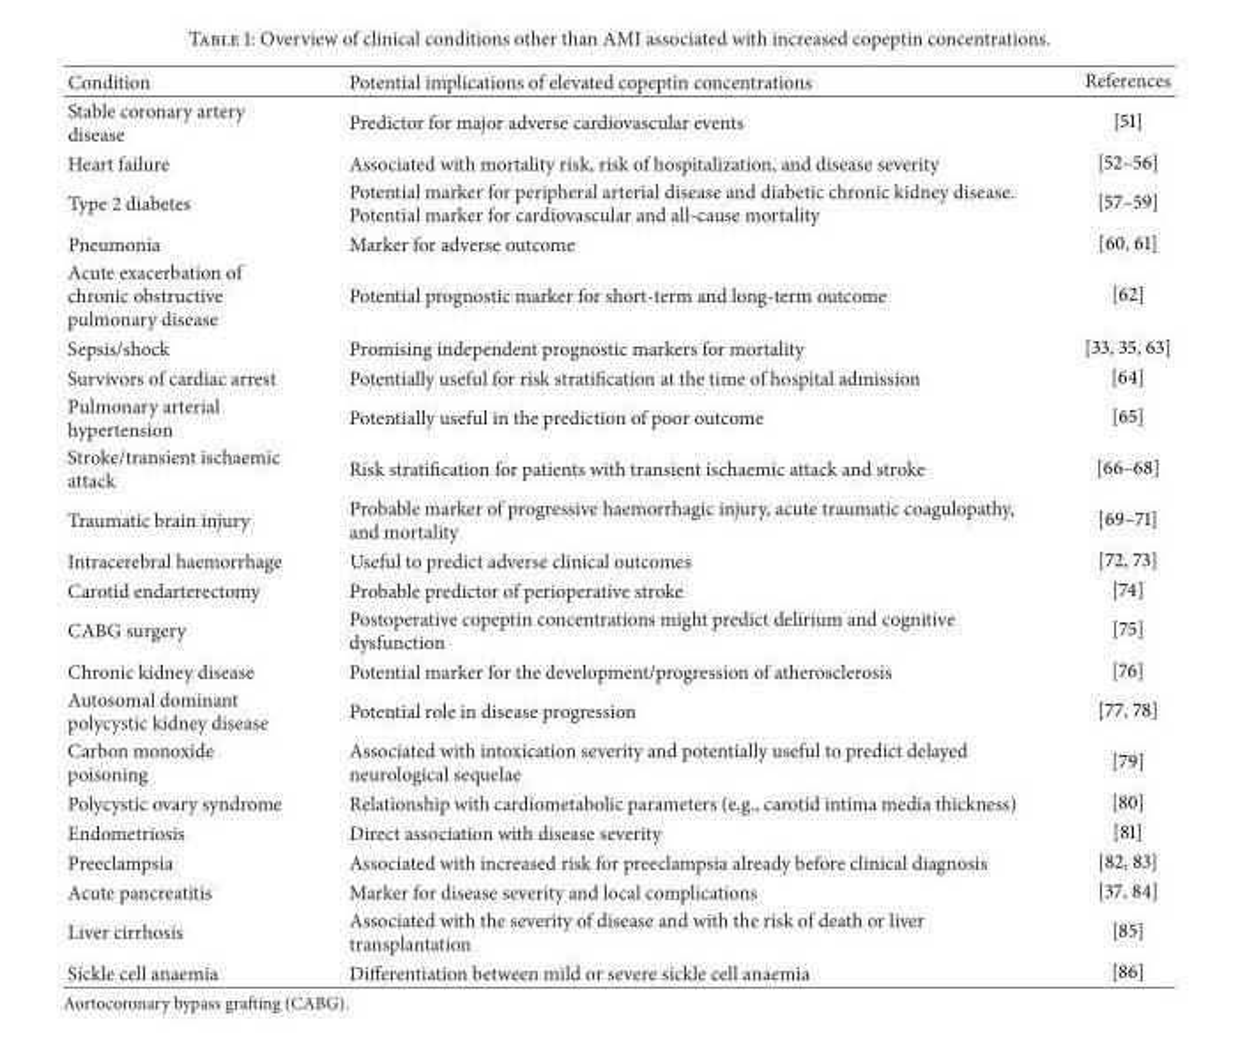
<table><thead><tr><td>Condition</td><td>Potential implications of elevated copeptin concentrations</td><td>References</td></tr></thead><tbody><tr><td>Stable coronary artery disease</td><td>Predictor for major adverse cardiovascular events</td><td>[51]</td></tr><tr><td>Heart failure</td><td>Associated with mortality risk, risk of hospitalization, and disease severity</td><td>[52–56]</td></tr><tr><td>Type 2 diabetes</td><td>Potential marker for peripheral arterial disease and diabetic chronic kidney disease. Potential marker for cardiovascular and all-cause mortality</td><td>[57–59]</td></tr><tr><td>Pneumonia</td><td>Marker for adverse outcome</td><td>[60, 61]</td></tr><tr><td>Acute exacerbation of chronic obstructive pulmonary disease</td><td>Potential prognostic marker for short-term and long-term outcome</td><td>[62]</td></tr><tr><td>Sepsis/shock</td><td>Promising independent prognostic markers for mortality</td><td>[33, 35, 63]</td></tr><tr><td>Survivors of cardiac arrest</td><td>Potentially useful for risk stratification at the time of hospital admission</td><td>[64]</td></tr><tr><td>Pulmonary arterial hypertension</td><td>Potentially useful in the prediction of poor outcome</td><td>[65]</td></tr><tr><td>Stroke/transient ischaemic attack</td><td>Risk stratification for patients with transient ischaemic attack and stroke</td><td>[66–68]</td></tr><tr><td>Traumatic brain injury</td><td>Probable marker of progressive haemorrhagic injury, acute traumatic coagulopathy, and mortality</td><td>[69–71]</td></tr><tr><td>Intracerebral haemorrhage</td><td>Useful to predict adverse clinical outcomes</td><td>[72, 73]</td></tr><tr><td>Carotid endarterectomy</td><td>Probable predictor of perioperative stroke</td><td>[74]</td></tr><tr><td>CABG surgery</td><td>Postoperative copeptin concentrations might predict delirium and cognitive dysfunction</td><td>[75]</td></tr><tr><td>Chronic kidney disease</td><td>Potential marker for the development/progression of atherosclerosis</td><td>[76]</td></tr><tr><td>Autosomal dominant polycystic kidney disease</td><td>Potential role in disease progression</td><td>[77, 78]</td></tr><tr><td>Carbon monoxide poisoning</td><td>Associated with intoxication severity and potentially useful to predict delayed neurological sequelae</td><td>[79]</td></tr><tr><td>Polycystic ovary syndrome</td><td>Relationship with cardiometabolic parameters (e.g., carotid intima media thickness)</td><td>[80]</td></tr><tr><td>Endometriosis</td><td>Direct association with disease severity</td><td>[81]</td></tr><tr><td>Preeclampsia</td><td>Associated with increased risk for preeclampsia already before clinical diagnosis</td><td>[82, 83]</td></tr><tr><td>Acute pancreatitis</td><td>Marker for disease severity and local complications</td><td>[37, 84]</td></tr><tr><td>Liver cirrhosis</td><td>Associated with the severity of disease and with the risk of death or liver transplantation</td><td>[85]</td></tr><tr><td>Sickle cell anaemia</td><td>Differentiation between mild or severe sickle cell anaemia</td><td>[86]</td></tr></tbody></table>